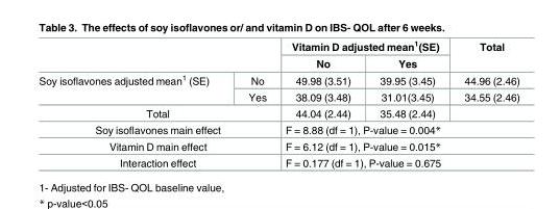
<table><thead><tr><td rowspan="2"></td><td rowspan="2"></td><td colspan="2">Vitamin D adjusted mean<sup>1</sup>(SE)</td><td rowspan="2">Total</td></tr><tr><td>No</td><td>Yes</td></tr></thead><tbody><tr><td rowspan="2">Soy isoflavones adjusted mean<sup>1</sup> (SE)</td><td>No</td><td>49.98 (3.51)</td><td>39.95 (3.45)</td><td>44.96 (2.46)</td></tr><tr><td>Yes</td><td>38.09 (3.48)</td><td>31.01(3.45)</td><td>34.55 (2.46)</td></tr><tr><td colspan="2">Total</td><td>44.04 (2.44)</td><td>35.48 (2.44)</td><td></td></tr><tr><td colspan="2">Soy isoflavones main effect</td><td colspan="3">F = 8.88 (df = 1), P-value = 0.004*</td></tr><tr><td colspan="2">Vitamin D main effect</td><td colspan="3">F = 6.12 (df = 1), P-value = 0.015*</td></tr><tr><td colspan="2">Interaction effect</td><td colspan="3">F = 0.177 (df = 1), P-value = 0.675</td></tr></tbody></table>